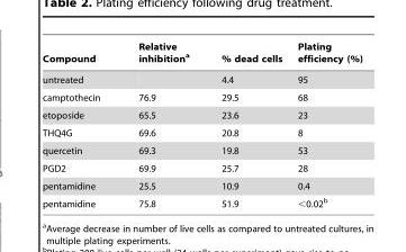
<table><thead><tr><td>Compound</td><td>Relative inhibition<sup>a</sup></td><td>% dead cells</td><td>Plating efficiency (%)</td></tr></thead><tbody><tr><td>untreated</td><td></td><td>4.4</td><td>95</td></tr><tr><td>camptothecin</td><td>76.9</td><td>29.5</td><td>68</td></tr><tr><td>etoposide</td><td>65.5</td><td>23.6</td><td>23</td></tr><tr><td>THQ4G</td><td>69.6</td><td>20.8</td><td>8</td></tr><tr><td>quercetin</td><td>69.3</td><td>19.8</td><td>53</td></tr><tr><td>PGD2</td><td>69.9</td><td>25.7</td><td>28</td></tr><tr><td>pentamidine</td><td>25.5</td><td>10.9</td><td>0.4</td></tr><tr><td>pentamidine</td><td>75.8</td><td>51.9</td><td>&lt;0.02<sup>b</sup></td></tr></tbody></table>